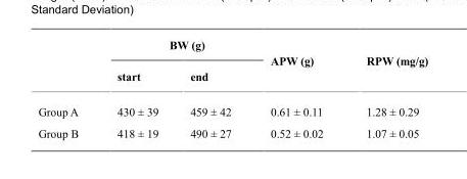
<table><thead><tr><td rowspan="2"></td><td colspan="2">BW (g)</td><td rowspan="2">APW (g)</td><td rowspan="2">RPW (mg/g)</td></tr><tr><td>start</td><td>end</td></tr></thead><tbody><tr><td>Group A</td><td>430 ± 39</td><td>459 ± 42</td><td>0.61 ± 0.11</td><td>1.28 ± 0.29</td></tr><tr><td>Group B</td><td>418 ± 19</td><td>490 ± 27</td><td>0.52 ± 0.02</td><td>1.07 ± 0.05</td></tr></tbody></table>